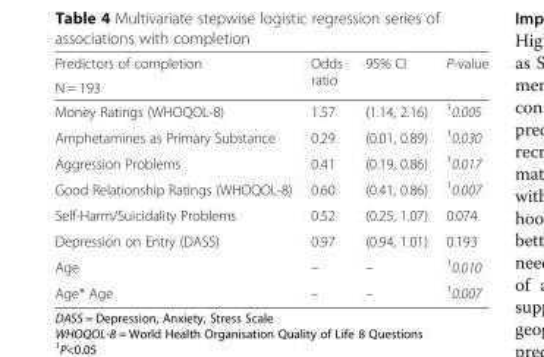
<table><thead><tr><td rowspan="2">Predictors of completion N = 193</td><td rowspan="2">Odds ratio</td><td rowspan="2">95% CI</td><td rowspan="2">P-value</td></tr><tr></tr></thead><tbody><tr><td>Money Ratings (WHOQOL-8)</td><td>1.57</td><td>(1.14, 2.16)</td><td><sup>1</sup>0.005</td></tr><tr><td>Amphetamines as Primary Substance</td><td>0.29</td><td>(0.01, 0.89)</td><td><sup>1</sup>0.030</td></tr><tr><td>Aggression Problems</td><td>0.41</td><td>(0.19, 0.86)</td><td><sup>1</sup>0.017</td></tr><tr><td>Good Relationship Ratings (WHOQOL-8)</td><td>0.60</td><td>(0.41, 0.86)</td><td><sup>1</sup>0.007</td></tr><tr><td>Self-Harm/Suicidality Problems</td><td>0.52</td><td>(0.25, 1.07)</td><td>0.074</td></tr><tr><td>Depression on Entry (DASS)</td><td>0.97</td><td>(0.94, 1.01)</td><td>0.193</td></tr><tr><td>Age</td><td>–</td><td>–</td><td><sup>1</sup>0.010</td></tr><tr><td>Age* Age</td><td>–</td><td>–</td><td><sup>1</sup>0.007</td></tr></tbody></table>